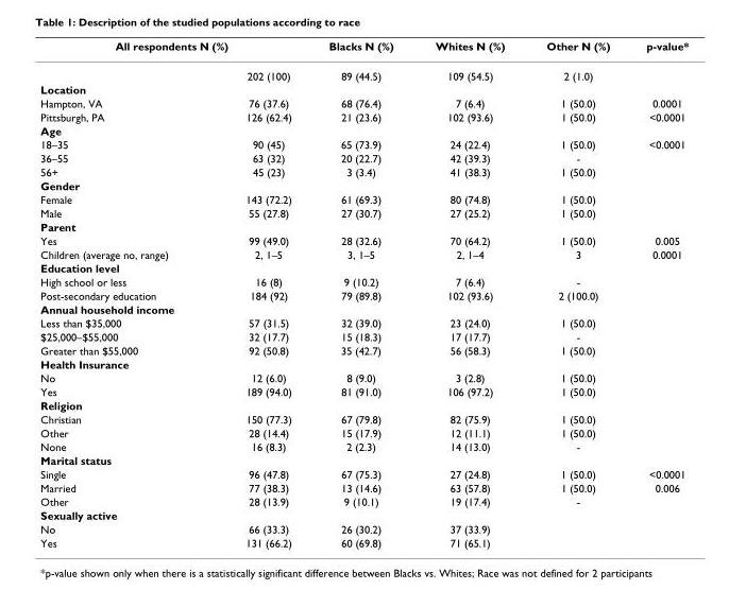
<table><thead><tr><td colspan="2">All respondents N (%)</td><td rowspan="2">Blacks N (%) 89 (44.5)</td><td rowspan="2">Whites N (%) 109 (54.5)</td><td rowspan="2">Other N (%) 2 (1.0)</td><td rowspan="2">p-value*</td></tr><tr><td></td><td>202 (100)</td></tr></thead><tbody><tr><td colspan="6">Location</td></tr><tr><td>Hampton, VA</td><td>76 (37.6)</td><td>68 (76.4)</td><td>7 (6.4)</td><td>1 (50.0)</td><td>0.0001</td></tr><tr><td>Pittsburgh, PA</td><td>126 (62.4)</td><td>21 (23.6)</td><td>102 (93.6)</td><td>1 (50.0)</td><td>&lt;0.0001</td></tr><tr><td colspan="6">Age</td></tr><tr><td>18–35</td><td>90 (45)</td><td>65 (73.9)</td><td>24 (22.4)</td><td>1 (50.0)</td><td>&lt;0.0001</td></tr><tr><td>36–55</td><td>63 (32)</td><td>20 (22.7)</td><td>42 (39.3)</td><td>-</td><td></td></tr><tr><td>56+</td><td>45 (23)</td><td>3 (3.4)</td><td>41 (38.3)</td><td>1 (50.0)</td><td></td></tr><tr><td colspan="6">Gender</td></tr><tr><td>Female</td><td>143 (72.2)</td><td>61 (69.3)</td><td>80 (74.8)</td><td>1 (50.0)</td><td></td></tr><tr><td>Male</td><td>55 (27.8)</td><td>27 (30.7)</td><td>27 (25.2)</td><td>1 (50.0)</td><td></td></tr><tr><td colspan="6">Parent</td></tr><tr><td>Yes</td><td>99 (49.0)</td><td>28 (32.6)</td><td>70 (64.2)</td><td>1 (50.0)</td><td>0.005</td></tr><tr><td>Children (average no, range)</td><td>2, 1–5</td><td>3, 1–5</td><td>2, 1–4</td><td>3</td><td>0.0001</td></tr><tr><td colspan="6">Education level</td></tr><tr><td>High school or less</td><td>16 (8)</td><td>9 (10.2)</td><td>7 (6.4)</td><td>-</td><td></td></tr><tr><td>Post-secondary education</td><td>184 (92)</td><td>79 (89.8)</td><td>102 (93.6)</td><td>2 (100.0)</td><td></td></tr><tr><td colspan="6">Annual household income</td></tr><tr><td>Less than $35,000</td><td>57 (31.5)</td><td>32 (39.0)</td><td>23 (24.0)</td><td>1 (50.0)</td><td></td></tr><tr><td>$25,000–$55,000</td><td>32 (17.7)</td><td>15 (18.3)</td><td>17 (17.7)</td><td>-</td><td></td></tr><tr><td>Greater than $55,000</td><td>92 (50.8)</td><td>35 (42.7)</td><td>56 (58.3)</td><td>1 (50.0)</td><td></td></tr><tr><td colspan="6">Health Insurance</td></tr><tr><td>No</td><td>12 (6.0)</td><td>8 (9.0)</td><td>3 (2.8)</td><td>1 (50.0)</td><td></td></tr><tr><td>Yes</td><td>189 (94.0)</td><td>81 (91.0)</td><td>106 (97.2)</td><td>1 (50.0)</td><td></td></tr><tr><td colspan="6">Religion</td></tr><tr><td>Christian</td><td>150 (77.3)</td><td>67 (79.8)</td><td>82 (75.9)</td><td>1 (50.0)</td><td></td></tr><tr><td>Other</td><td>28 (14.4)</td><td>15 (17.9)</td><td>12 (11.1)</td><td>1 (50.0)</td><td></td></tr><tr><td>None</td><td>16 (8.3)</td><td>2 (2.3)</td><td>14 (13.0)</td><td>-</td><td></td></tr><tr><td colspan="6">Marital status</td></tr><tr><td>Single</td><td>96 (47.8)</td><td>67 (75.3)</td><td>27 (24.8)</td><td>1 (50.0)</td><td>&lt;0.0001</td></tr><tr><td>Married</td><td>77 (38.3)</td><td>13 (14.6)</td><td>63 (57.8)</td><td>1 (50.0)</td><td>0.006</td></tr><tr><td>Other</td><td>28 (13.9)</td><td>9 (10.1)</td><td>19 (17.4)</td><td>-</td><td></td></tr><tr><td colspan="6">Sexually active</td></tr><tr><td>No</td><td>66 (33.3)</td><td>26 (30.2)</td><td>37 (33.9)</td><td></td><td></td></tr><tr><td>Yes</td><td>131 (66.2)</td><td>60 (69.8)</td><td>71 (65.1)</td><td></td><td></td></tr></tbody></table>